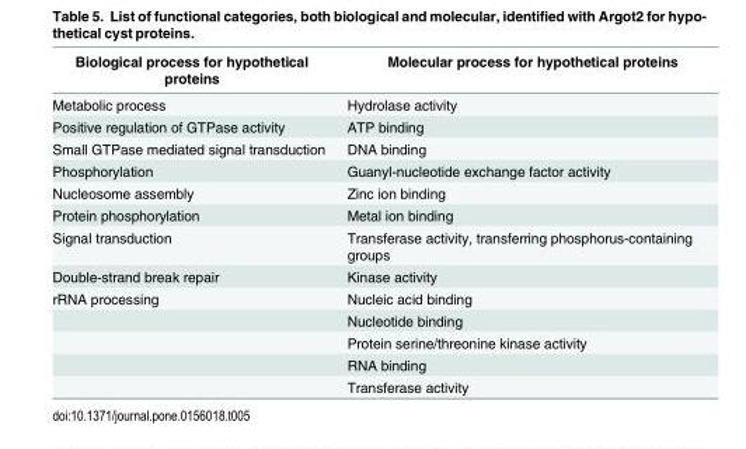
<table><thead><tr><td>Biological process for hypothetical proteins</td><td>Molecular process for hypothetical proteins</td></tr></thead><tbody><tr><td>Metabolic process</td><td>Hydrolase activity</td></tr><tr><td>Positive regulation of GTPase activity</td><td>ATP binding</td></tr><tr><td>Small GTPase mediated signal transduction</td><td>DNA binding</td></tr><tr><td>Phosphorylation</td><td>Guanyl-nucleotide exchange factor activity</td></tr><tr><td>Nucleosome assembly</td><td>Zinc ion binding</td></tr><tr><td>Protein phosphorylation</td><td>Metal ion binding</td></tr><tr><td>Signal transduction</td><td>Transferase activity, transferring phosphorus-containing groups</td></tr><tr><td>Double-strand break repair</td><td>Kinase activity</td></tr><tr><td rowspan="5">rRNA processing</td><td>Nucleic acid binding</td></tr><tr><td>Nucleotide binding</td></tr><tr><td>Protein serine/threonine kinase activity</td></tr><tr><td>RNA binding</td></tr><tr><td>Transferase activity</td></tr></tbody></table>